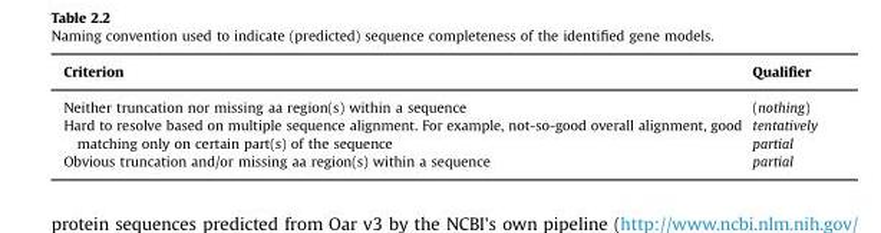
<table><thead><tr><td>Criterion</td><td>Qualifier</td></tr></thead><tbody><tr><td>Neither truncation nor missing aa region(s) within a sequence</td><td>(nothing)</td></tr><tr><td>Hard to resolve based on multiple sequence alignment. For example, not-so-good overall alignment, good matching only on certain part(s) of the sequence</td><td>tentatively partial</td></tr><tr><td>Obvious truncation and/or missing aa region(s) within a sequence</td><td>partial</td></tr></tbody></table>